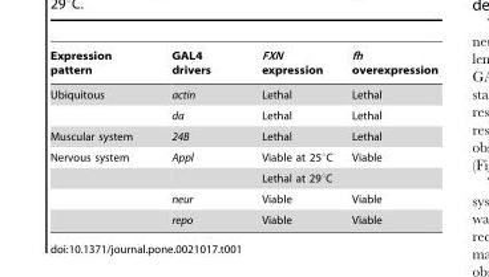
<table><thead><tr><td>Expression pattern</td><td>GAL4 drivers</td><td>FXN expression</td><td>fh overexpression</td></tr></thead><tbody><tr><td rowspan="2">Ubiquitous</td><td>actin</td><td>Lethal</td><td>Lethal</td></tr><tr><td>da</td><td>Lethal</td><td>Lethal</td></tr><tr><td>Muscular system</td><td>24B</td><td>Lethal</td><td>Lethal</td></tr><tr><td rowspan="4">Nervous system</td><td>Appl</td><td>Viable at 25°C</td><td>Viable</td></tr><tr><td></td><td>Lethal at 29°C</td><td></td></tr><tr><td>neur</td><td>Viable</td><td>Viable</td></tr><tr><td>repo</td><td>Viable</td><td>Viable</td></tr></tbody></table>